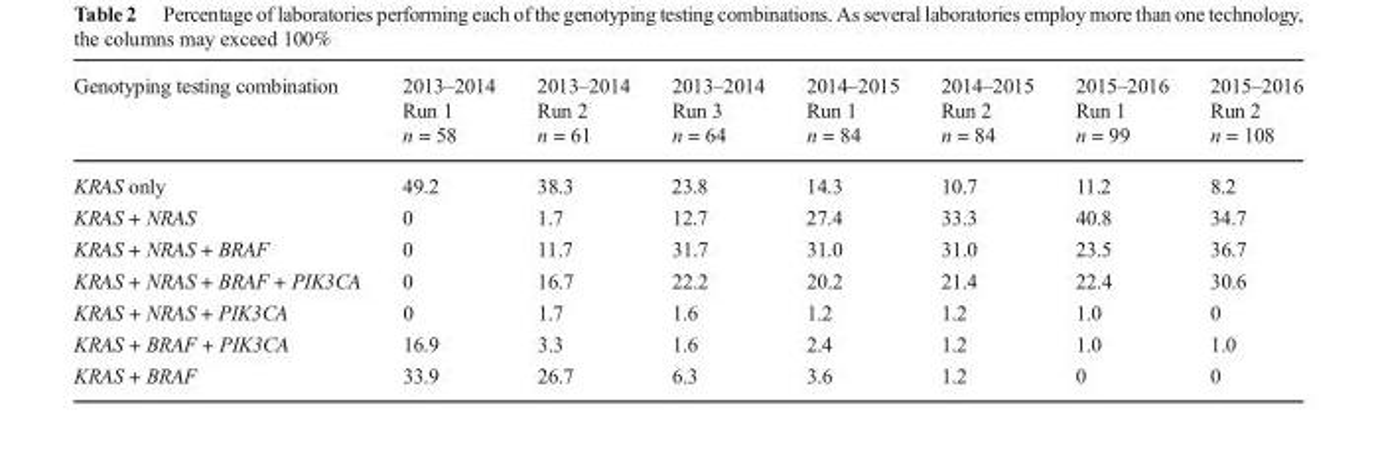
<table><thead><tr><td rowspan="2">Genotyping testing combination</td><td rowspan="2">2013–2014 Run 1 n = 58</td><td rowspan="2">2013–2014 Run 2 n = 61</td><td rowspan="2">2013–2014 Run 3 n = 64</td><td rowspan="2">2014–2015 Run 1 n = 84</td><td rowspan="2">2014–2015 Run 2 n = 84</td><td rowspan="2">2015–2016 Run 1 n = 99</td><td rowspan="2">2015–2016 Run 2 n = 108</td></tr><tr></tr></thead><tbody><tr><td>KRAS only</td><td>49.2</td><td>38.3</td><td>23.8</td><td>14.3</td><td>10.7</td><td>11.2</td><td>8.2</td></tr><tr><td>KRAS + NRAS</td><td>0</td><td>1.7</td><td>12.7</td><td>27.4</td><td>33.3</td><td>40.8</td><td>34.7</td></tr><tr><td>KRAS + NRAS + BRAF</td><td>0</td><td>11.7</td><td>31.7</td><td>31.0</td><td>31.0</td><td>23.5</td><td>36.7</td></tr><tr><td>KRAS + NRAS + BRAF + PIK3CA</td><td>0</td><td>16.7</td><td>22.2</td><td>20.2</td><td>21.4</td><td>22.4</td><td>30.6</td></tr><tr><td>KRAS + NRAS + PIK3CA</td><td>0</td><td>1.7</td><td>1.6</td><td>1.2</td><td>1.2</td><td>1.0</td><td>0</td></tr><tr><td>KRAS + BRAF + PIK3CA</td><td>16.9</td><td>3.3</td><td>1.6</td><td>2.4</td><td>1.2</td><td>1.0</td><td>1.0</td></tr><tr><td>KRAS + BRAF</td><td>33.9</td><td>26.7</td><td>6.3</td><td>3.6</td><td>1.2</td><td>0</td><td>0</td></tr></tbody></table>